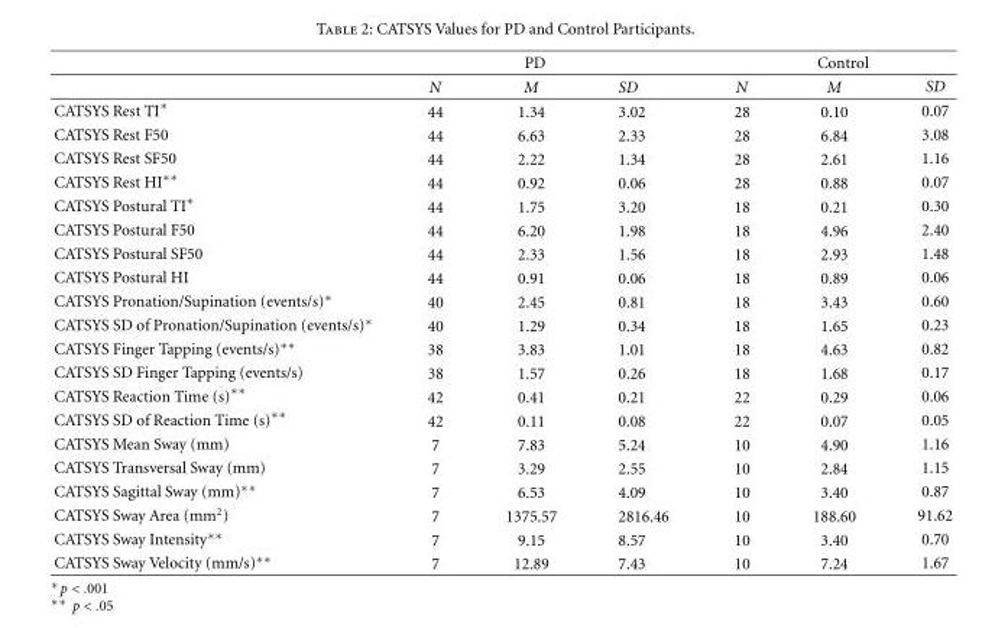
<table><thead><tr><td rowspan="2"></td><td colspan="3">PD</td><td colspan="3">Control</td></tr><tr><td>N</td><td>M</td><td>SD</td><td>N</td><td>M</td><td>SD</td></tr></thead><tbody><tr><td>CATSYS Rest TI∗</td><td>44</td><td>1.34</td><td>3.02</td><td>28</td><td>0.10</td><td>0.07</td></tr><tr><td>CATSYS Rest F50</td><td>44</td><td>6.63</td><td>2.33</td><td>28</td><td>6.84</td><td>3.08</td></tr><tr><td>CATSYS Rest SF50</td><td>44</td><td>2.22</td><td>1.34</td><td>28</td><td>2.61</td><td>1.16</td></tr><tr><td>CATSYS Rest HI∗∗</td><td>44</td><td>0.92</td><td>0.06</td><td>28</td><td>0.88</td><td>0.07</td></tr><tr><td>CATSYS Postural TI∗</td><td>44</td><td>1.75</td><td>3.20</td><td>18</td><td>0.21</td><td>0.30</td></tr><tr><td>CATSYS Postural F50</td><td>44</td><td>6.20</td><td>1.98</td><td>18</td><td>4.96</td><td>2.40</td></tr><tr><td>CATSYS Postural SF50</td><td>44</td><td>2.33</td><td>1.56</td><td>18</td><td>2.93</td><td>1.48</td></tr><tr><td>CATSYS Postural HI</td><td>44</td><td>0.91</td><td>0.06</td><td>18</td><td>0.89</td><td>0.06</td></tr><tr><td>CATSYS Pronation/Supination (events/s)∗</td><td>40</td><td>2.45</td><td>0.81</td><td>18</td><td>3.43</td><td>0.60</td></tr><tr><td>CATSYS SD of Pronation/Supination (events/s)∗</td><td>40</td><td>1.29</td><td>0.34</td><td>18</td><td>1.65</td><td>0.23</td></tr><tr><td>CATSYS Finger Tapping (events/s)∗∗</td><td>38</td><td>3.83</td><td>1.01</td><td>18</td><td>4.63</td><td>0.82</td></tr><tr><td>CATSYS SD Finger Tapping (events/s)</td><td>38</td><td>1.57</td><td>0.26</td><td>18</td><td>1.68</td><td>0.17</td></tr><tr><td>CATSYS Reaction Time (s)∗∗</td><td>42</td><td>0.41</td><td>0.21</td><td>22</td><td>0.29</td><td>0.06</td></tr><tr><td>CATSYS SD of Reaction Time (s)∗∗</td><td>42</td><td>0.11</td><td>0.08</td><td>22</td><td>0.07</td><td>0.05</td></tr><tr><td>CATSYS Mean Sway (mm)</td><td>7</td><td>7.83</td><td>5.24</td><td>10</td><td>4.90</td><td>1.16</td></tr><tr><td>CATSYS Transversal Sway (mm)</td><td>7</td><td>3.29</td><td>2.55</td><td>10</td><td>2.84</td><td>1.15</td></tr><tr><td>CATSYS Sagittal Sway (mm)∗∗</td><td>7</td><td>6.53</td><td>4.09</td><td>10</td><td>3.40</td><td>0.87</td></tr><tr><td>CATSYS Sway Area (mm<sup>2</sup>)</td><td>7</td><td>1375.57</td><td>2816.46</td><td>10</td><td>188.60</td><td>91.62</td></tr><tr><td>CATSYS Sway Intensity∗∗</td><td>7</td><td>9.15</td><td>8.57</td><td>10</td><td>3.40</td><td>0.70</td></tr><tr><td>CATSYS Sway Velocity (mm/s)∗∗</td><td>7</td><td>12.89</td><td>7.43</td><td>10</td><td>7.24</td><td>1.67</td></tr></tbody></table>